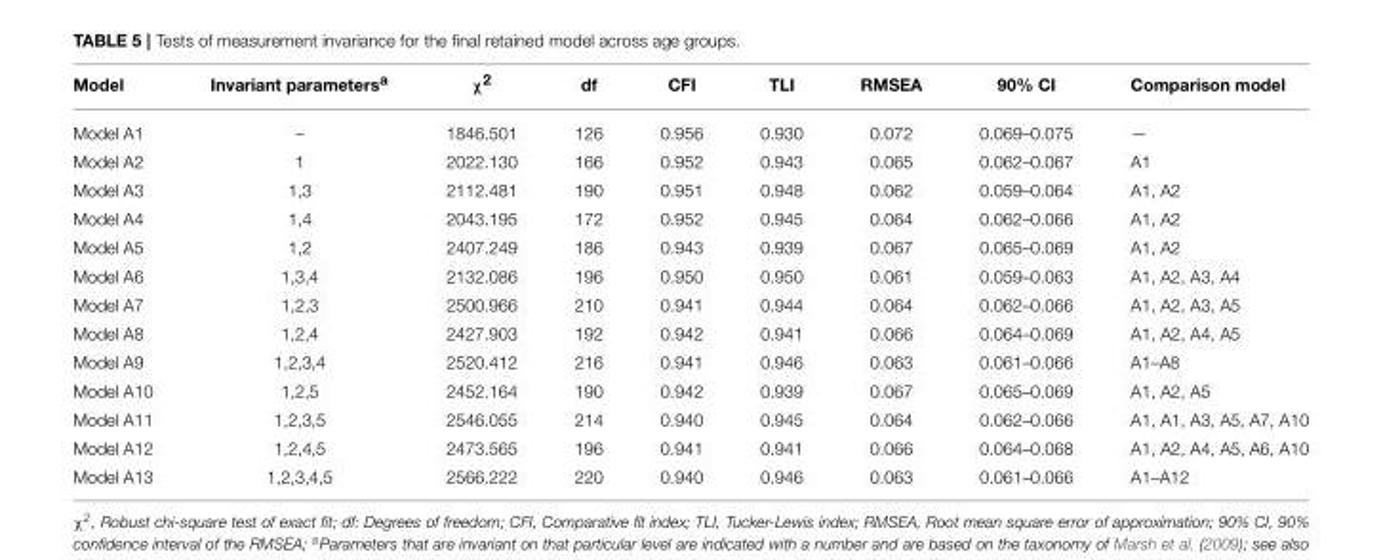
<table><thead><tr><td>Model</td><td>Invariant parameters<sup>a</sup></td><td>χ<sup>2</sup></td><td>df</td><td>CFI</td><td>TLI</td><td>RMSEA</td><td>90% CI</td><td>Comparison model</td></tr></thead><tbody><tr><td>Model A1</td><td>–</td><td>1846.501</td><td>126</td><td>0.956</td><td>0.930</td><td>0.072</td><td>0.069–0.075</td><td>—</td></tr><tr><td>Model A2</td><td>1</td><td>2022.130</td><td>166</td><td>0.952</td><td>0.943</td><td>0.065</td><td>0.062–0.067</td><td>A1</td></tr><tr><td>Model A3</td><td>1,3</td><td>2112.481</td><td>190</td><td>0.951</td><td>0.948</td><td>0.062</td><td>0.059–0.064</td><td>A1, A2</td></tr><tr><td>Model A4</td><td>1,4</td><td>2043.195</td><td>172</td><td>0.952</td><td>0.945</td><td>0.064</td><td>0.062–0.066</td><td>A1, A2</td></tr><tr><td>Model A5</td><td>1,2</td><td>2407.249</td><td>186</td><td>0.943</td><td>0.939</td><td>0.067</td><td>0.065–0.069</td><td>A1, A2</td></tr><tr><td>Model A6</td><td>1,3,4</td><td>2132.086</td><td>196</td><td>0.950</td><td>0.950</td><td>0.061</td><td>0.059–0.063</td><td>A1, A2, A3, A4</td></tr><tr><td>Model A7</td><td>1,2,3</td><td>2500.966</td><td>210</td><td>0.941</td><td>0.944</td><td>0.064</td><td>0.062–0.066</td><td>A1, A2, A3, A5</td></tr><tr><td>Model A8</td><td>1,2,4</td><td>2427.903</td><td>192</td><td>0.942</td><td>0.941</td><td>0.066</td><td>0.064–0.069</td><td>A1, A2, A4, A5</td></tr><tr><td>Model A9</td><td>1,2,3,4</td><td>2520.412</td><td>216</td><td>0.941</td><td>0.946</td><td>0.063</td><td>0.061–0.066</td><td>A1–A8</td></tr><tr><td>Model A10</td><td>1,2,5</td><td>2452.164</td><td>190</td><td>0.942</td><td>0.939</td><td>0.067</td><td>0.065–0.069</td><td>A1, A2, A5</td></tr><tr><td>Model A11</td><td>1,2,3,5</td><td>2546.055</td><td>214</td><td>0.940</td><td>0.945</td><td>0.064</td><td>0.062–0.066</td><td>A1, A1, A3, A5, A7, A10</td></tr><tr><td>Model A12</td><td>1,2,4,5</td><td>2473.565</td><td>196</td><td>0.941</td><td>0.941</td><td>0.066</td><td>0.064–0.068</td><td>A1, A2, A4, A5, A6, A10</td></tr><tr><td>Model A13</td><td>1,2,3,4,5</td><td>2566.222</td><td>220</td><td>0.940</td><td>0.946</td><td>0.063</td><td>0.061–0.066</td><td>A1–A12</td></tr></tbody></table>